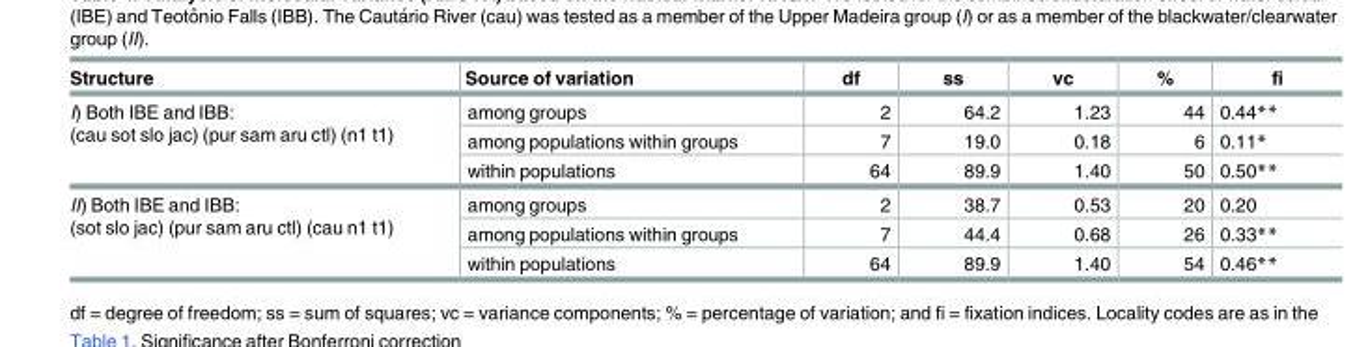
<table><thead><tr><td>Structure</td><td>Source of variation</td><td>df</td><td>ss</td><td>vc</td><td>%</td><td>fi</td></tr></thead><tbody><tr><td rowspan="3">I) Both IBE and IBB: (cau sot slo jac) (pur sam aru ctl) (n1 t1)</td><td>among groups</td><td>2</td><td>64.2</td><td>1.23</td><td>44</td><td>0.44**</td></tr><tr><td>among populations within groups</td><td>7</td><td>19.0</td><td>0.18</td><td>6</td><td>0.11*</td></tr><tr><td>within populations</td><td>64</td><td>89.9</td><td>1.40</td><td>50</td><td>0.50**</td></tr><tr><td rowspan="3">II) Both IBE and IBB: (sot slo jac) (pur sam aru ctl) (cau n1 t1)</td><td>among groups</td><td>2</td><td>38.7</td><td>0.53</td><td>20</td><td>0.20</td></tr><tr><td>among populations within groups</td><td>7</td><td>44.4</td><td>0.68</td><td>26</td><td>0.33**</td></tr><tr><td>within populations</td><td>64</td><td>89.9</td><td>1.40</td><td>54</td><td>0.46**</td></tr></tbody></table>